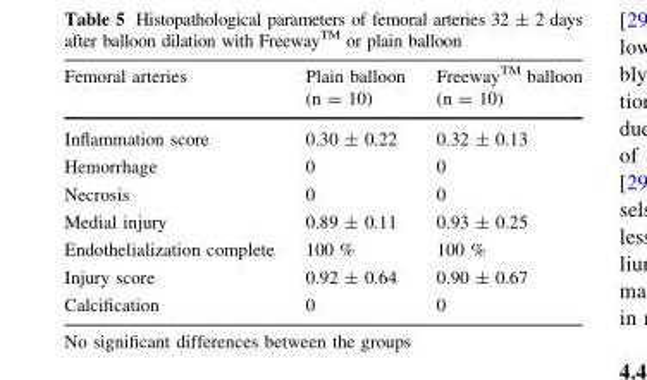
<table><thead><tr><td>Femoral arteries</td><td>Plain balloon (n = 10)</td><td>FreewayTM balloon (n = 10)</td></tr></thead><tbody><tr><td>Inflammation score</td><td>0.30 ± 0.22</td><td>0.32 ± 0.13</td></tr><tr><td>Hemorrhage</td><td>0</td><td>0</td></tr><tr><td>Necrosis</td><td>0</td><td>0</td></tr><tr><td>Medial injury</td><td>0.89 ± 0.11</td><td>0.93 ± 0.25</td></tr><tr><td>Endothelialization complete</td><td>100 %</td><td>100 %</td></tr><tr><td>Injury score</td><td>0.92 ± 0.64</td><td>0.90 ± 0.67</td></tr><tr><td>Calcification</td><td>0</td><td>0</td></tr></tbody></table>